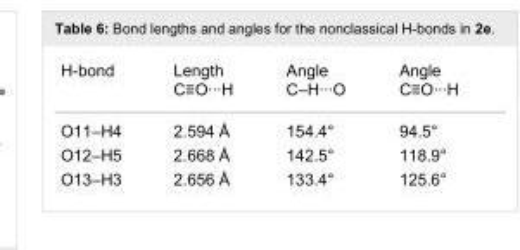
<table><tbody><tr><td>H-bond</td><td>Length C≡O···H</td><td>Angle C–H···O</td><td>Angle C≡O···H</td></tr><tr><td>O11–H4</td><td>2.594 Å</td><td>154.4°</td><td>94.5°</td></tr><tr><td>O12–H5</td><td>2.668 Å</td><td>142.5°</td><td>118.9°</td></tr><tr><td>O13–H3</td><td>2.656 Å</td><td>133.4°</td><td>125.6°</td></tr></tbody></table>